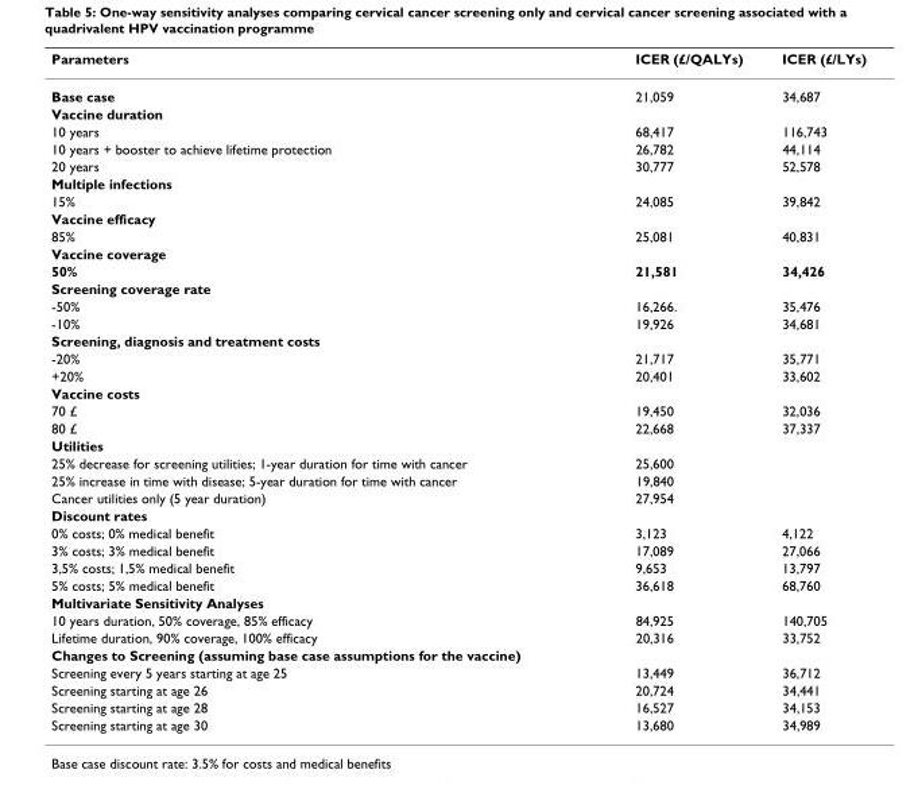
<table><thead><tr><td>Parameters</td><td>ICER (£/QALYs)</td><td>ICER (£/LYs)</td></tr></thead><tbody><tr><td>Base case</td><td>21,059</td><td>34,687</td></tr><tr><td colspan="3">Vaccine duration</td></tr><tr><td>10 years</td><td>68,417</td><td>116,743</td></tr><tr><td>10 years + booster to achieve lifetime protection</td><td>26,782</td><td>44,114</td></tr><tr><td>20 years</td><td>30,777</td><td>52,578</td></tr><tr><td colspan="3">Multiple infections</td></tr><tr><td>15%</td><td>24,085</td><td>39,842</td></tr><tr><td colspan="3">Vaccine efficacy</td></tr><tr><td>85%</td><td>25,081</td><td>40,831</td></tr><tr><td colspan="3">Vaccine coverage</td></tr><tr><td>50%</td><td>21,581</td><td>34,426</td></tr><tr><td colspan="3">Screening coverage rate</td></tr><tr><td>-50%</td><td>16,266.</td><td>35,476</td></tr><tr><td>-10%</td><td>19,926</td><td>34,681</td></tr><tr><td colspan="3">Screening, diagnosis and treatment costs</td></tr><tr><td>-20%</td><td>21,717</td><td>35,771</td></tr><tr><td>+20%</td><td>20,401</td><td>33,602</td></tr><tr><td colspan="3">Vaccine costs</td></tr><tr><td>70 £</td><td>19,450</td><td>32,036</td></tr><tr><td>80 £</td><td>22,668</td><td>37,337</td></tr><tr><td colspan="3">Utilities</td></tr><tr><td>25% decrease for screening utilities; 1-year duration for time with cancer</td><td>25,600</td><td></td></tr><tr><td>25% increase in time with disease; 5-year duration for time with cancer</td><td>19,840</td><td></td></tr><tr><td>Cancer utilities only (5 year duration)</td><td>27,954</td><td></td></tr><tr><td colspan="3">Discount rates</td></tr><tr><td>0% costs; 0% medical benefit</td><td>3,123</td><td>4,122</td></tr><tr><td>3% costs; 3% medical benefit</td><td>17,089</td><td>27,066</td></tr><tr><td>3,5% costs; 1,5% medical benefit</td><td>9,653</td><td>13,797</td></tr><tr><td>5% costs; 5% medical benefit</td><td>36,618</td><td>68,760</td></tr><tr><td colspan="3">Multivariate Sensitivity Analyses</td></tr><tr><td>10 years duration, 50% coverage, 85% efficacy</td><td>84,925</td><td>140,705</td></tr><tr><td>Lifetime duration, 90% coverage, 100% efficacy</td><td>20,316</td><td>33,752</td></tr><tr><td colspan="3">Changes to Screening (assuming base case assumptions for the vaccine)</td></tr><tr><td>Screening every 5 years starting at age 25</td><td>13,449</td><td>36,712</td></tr><tr><td>Screening starting at age 26</td><td>20,724</td><td>34,441</td></tr><tr><td>Screening starting at age 28</td><td>16,527</td><td>34,153</td></tr><tr><td>Screening starting at age 30</td><td>13,680</td><td>34,989</td></tr></tbody></table>